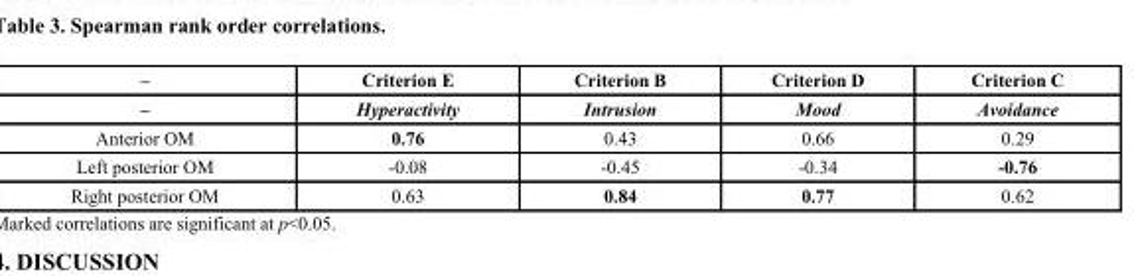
<table><thead><tr><td rowspan="2">– –</td><td rowspan="2">Criterion E Hyperactivity</td><td rowspan="2">Criterion B Intrusion</td><td rowspan="2">Criterion D Mood</td><td rowspan="2">Criterion C Avoidance</td></tr><tr></tr></thead><tbody><tr><td>Anterior OM</td><td>0.76</td><td>0.43</td><td>0.66</td><td>0.29</td></tr><tr><td>Left posterior OM</td><td>-0.08</td><td>-0.45</td><td>-0.34</td><td>-0.76</td></tr><tr><td>Right posterior OM</td><td>0.63</td><td>0.84</td><td>0.77</td><td>0.62</td></tr></tbody></table>